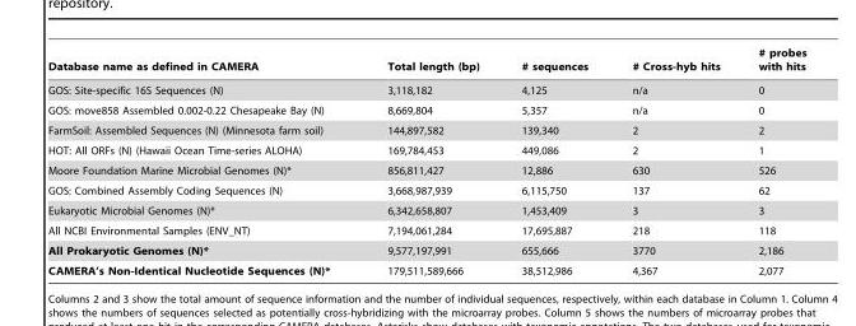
<table><thead><tr><td>Database name as defined in CAMERA</td><td>Total length (bp)</td><td># sequences</td><td># Cross-hyb hits</td><td># probes with hits</td></tr></thead><tbody><tr><td>GOS: Site-specific 16S Sequences (N)</td><td>3,118,182</td><td>4,125</td><td>n/a</td><td>0</td></tr><tr><td>GOS: move858 Assembled 0.002-0.22 Chesapeake Bay (N)</td><td>8,669,804</td><td>5,357</td><td>n/a</td><td>0</td></tr><tr><td>FarmSoil: Assembled Sequences (N) (Minnesota farm soil)</td><td>144,897,582</td><td>139,340</td><td>2</td><td>2</td></tr><tr><td>HOT: All ORFs (N) (Hawaii Ocean Time-series ALOHA)</td><td>169,784,453</td><td>449,086</td><td>2</td><td>1</td></tr><tr><td>Moore Foundation Marine Microbial Genomes (N)*</td><td>856,811,427</td><td>12,886</td><td>630</td><td>526</td></tr><tr><td>GOS: Combined Assembly Coding Sequences (N)</td><td>3,668,987,939</td><td>6,115,750</td><td>137</td><td>62</td></tr><tr><td>Eukaryotic Microbial Genomes (N)*</td><td>6,342,658,807</td><td>1,453,409</td><td>3</td><td>3</td></tr><tr><td>All NCBI Environmental Samples (ENV_NT)</td><td>7,194,061,284</td><td>17,695,887</td><td>218</td><td>118</td></tr><tr><td>All Prokaryotic Genomes (N)*</td><td>9,577,197,991</td><td>655,666</td><td>3770</td><td>2,186</td></tr><tr><td>CAMERA’s Non-Identical Nucleotide Sequences (N)*</td><td>179,511,589,666</td><td>38,512,986</td><td>4,367</td><td>2,077</td></tr></tbody></table>